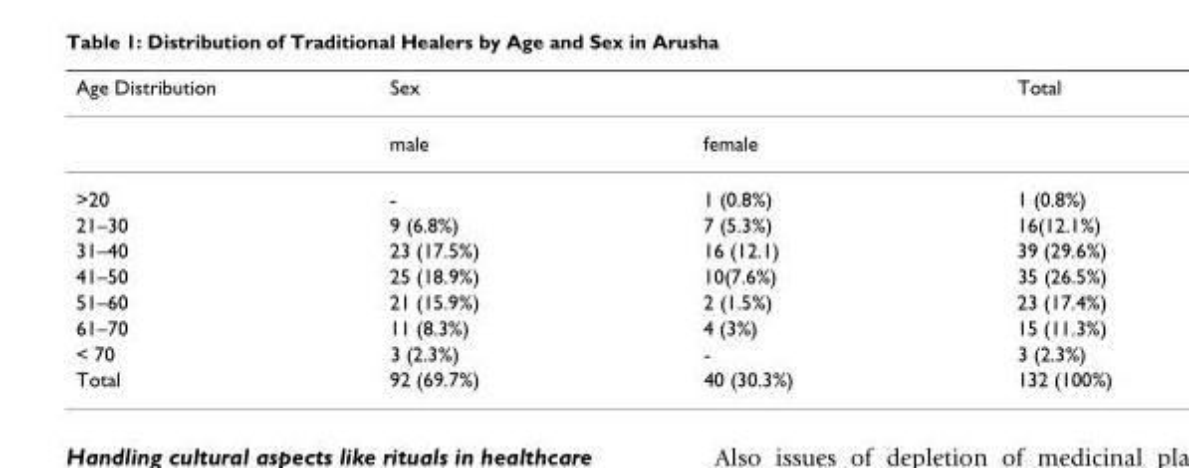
<table><thead><tr><td rowspan="2">Age Distribution</td><td colspan="2">Sex</td><td rowspan="2">Total</td></tr><tr><td>male</td><td>female</td></tr></thead><tbody><tr><td>&gt;20</td><td>-</td><td>1 (0.8%)</td><td>1 (0.8%)</td></tr><tr><td>21–30</td><td>9 (6.8%)</td><td>7 (5.3%)</td><td>16(12.1%)</td></tr><tr><td>31–40</td><td>23 (17.5%)</td><td>16 (12.1)</td><td>39 (29.6%)</td></tr><tr><td>41–50</td><td>25 (18.9%)</td><td>10(7.6%)</td><td>35 (26.5%)</td></tr><tr><td>51–60</td><td>21 (15.9%)</td><td>2 (1.5%)</td><td>23 (17.4%)</td></tr><tr><td>61–70</td><td>11 (8.3%)</td><td>4 (3%)</td><td>15 (11.3%)</td></tr><tr><td>&lt; 70</td><td>3 (2.3%)</td><td>-</td><td>3 (2.3%)</td></tr><tr><td>Total</td><td>92 (69.7%)</td><td>40 (30.3%)</td><td>132 (100%)</td></tr></tbody></table>